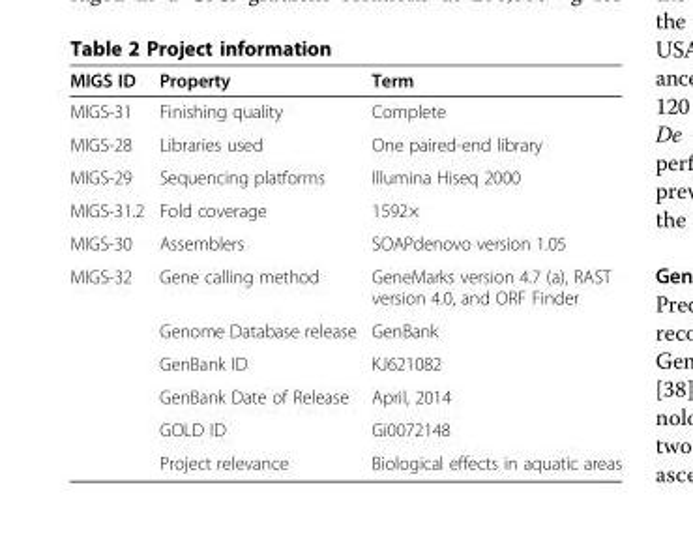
<table><thead><tr><td>MIGS ID</td><td>Property</td><td>Term</td></tr></thead><tbody><tr><td>MIGS-31</td><td>Finishing quality</td><td>Complete</td></tr><tr><td>MIGS-28</td><td>Libraries used</td><td>One paired-end library</td></tr><tr><td>MIGS-29</td><td>Sequencing platforms</td><td>Illumina Hiseq 2000</td></tr><tr><td>MIGS-31.2</td><td>Fold coverage</td><td>1592×</td></tr><tr><td>MIGS-30</td><td>Assemblers</td><td>SOAPdenovo version 1.05</td></tr><tr><td rowspan="6">MIGS-32</td><td>Gene calling method</td><td>GeneMarks version 4.7 (a), RAST version 4.0, and ORF Finder</td></tr><tr><td>Genome Database release</td><td>GenBank</td></tr><tr><td>GenBank ID</td><td>KJ621082</td></tr><tr><td>GenBank Date of Release</td><td>April, 2014</td></tr><tr><td>GOLD ID</td><td>Gi0072148</td></tr><tr><td>Project relevance</td><td>Biological effects in aquatic areas</td></tr></tbody></table>